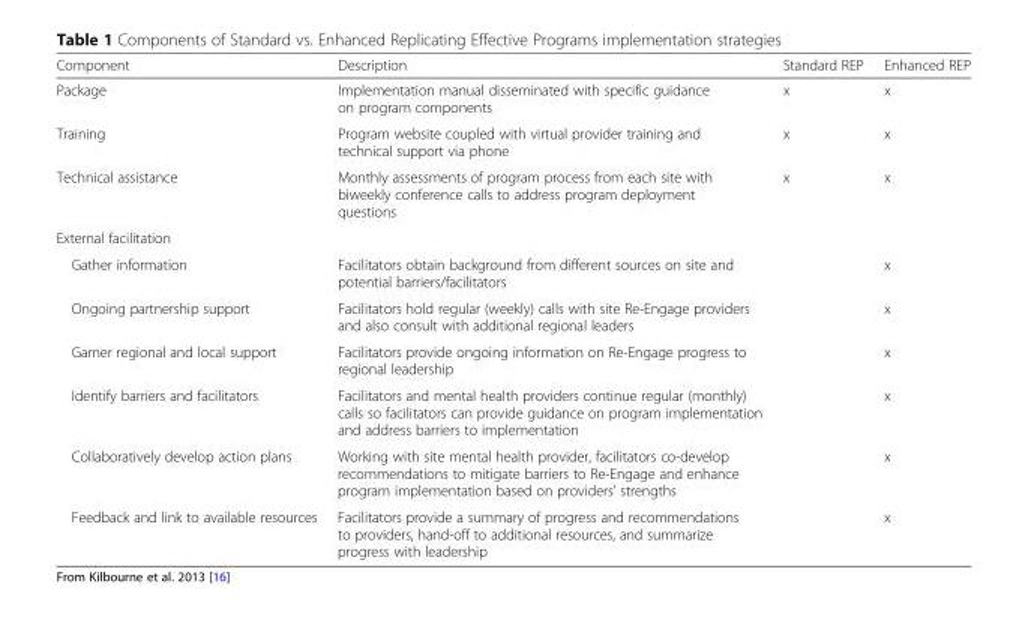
<table><thead><tr><td>Component</td><td>Description</td><td>Standard REP</td><td>Enhanced REP</td></tr></thead><tbody><tr><td>Package</td><td>Implementation manual disseminated with specific guidance on program components</td><td>x</td><td>x</td></tr><tr><td>Training</td><td>Program website coupled with virtual provider training and technical support via phone</td><td>x</td><td>x</td></tr><tr><td>Technical assistance</td><td>Monthly assessments of program process from each site with biweekly conference calls to address program deployment questions</td><td>x</td><td>x</td></tr><tr><td colspan="4">External facilitation</td></tr><tr><td>Gather information</td><td>Facilitators obtain background from different sources on site and potential barriers/facilitators</td><td></td><td>x</td></tr><tr><td>Ongoing partnership support</td><td>Facilitators hold regular (weekly) calls with site Re-Engage providers and also consult with additional regional leaders</td><td></td><td>x</td></tr><tr><td>Garner regional and local support</td><td>Facilitators provide ongoing information on Re-Engage progress to regional leadership</td><td></td><td>x</td></tr><tr><td>Identify barriers and facilitators</td><td>Facilitators and mental health providers continue regular (monthly) calls so facilitators can provide guidance on program implementation and address barriers to implementation</td><td></td><td>x</td></tr><tr><td>Collaboratively develop action plans</td><td>Working with site mental health provider, facilitators co-develop recommendations to mitigate barriers to Re-Engage and enhance program implementation based on providers’ strengths</td><td></td><td>x</td></tr><tr><td>Feedback and link to available resources</td><td>Facilitators provide a summary of progress and recommendations to providers, hand-off to additional resources, and summarize progress with leadership</td><td></td><td>x</td></tr></tbody></table>